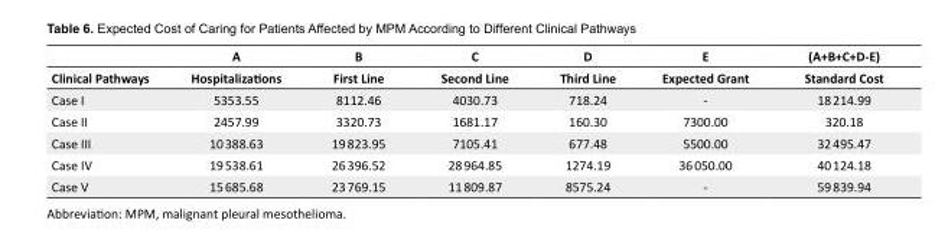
<table><thead><tr><td></td><td>A</td><td>B</td><td>C</td><td>D</td><td>E</td><td>(A+B+C+D-E)</td></tr></thead><tbody><tr><td>Clinical Pathways</td><td>Hospitalizations</td><td>First Line</td><td>Second Line</td><td>Third Line</td><td>Expected Grant</td><td>Standard Cost</td></tr><tr><td>Case I</td><td>5353.55</td><td>8112.46</td><td>4030.73</td><td>718.24</td><td>-</td><td>18 214.99</td></tr><tr><td>Case II</td><td>2457.99</td><td>3320.73</td><td>1681.17</td><td>160.30</td><td>7300.00</td><td>320.18</td></tr><tr><td>Case III</td><td>10 388.63</td><td>19 823.95</td><td>7105.41</td><td>677.48</td><td>5500.00</td><td>32 495.47</td></tr><tr><td>Case IV</td><td>19 538.61</td><td>26 396.52</td><td>28 964.85</td><td>1274.19</td><td>36 050.00</td><td>40 124.18</td></tr><tr><td>Case V</td><td>15 685.68</td><td>23 769.15</td><td>11 809.87</td><td>8575.24</td><td>-</td><td>59 839.94</td></tr></tbody></table>